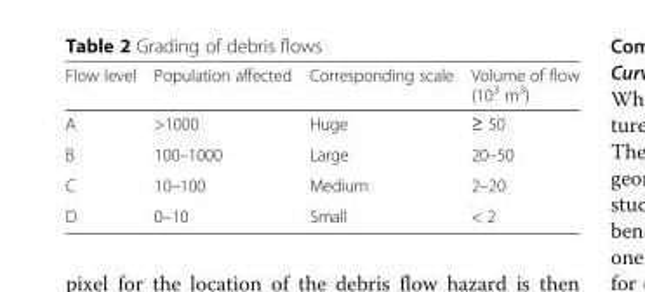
<table><thead><tr><td>Flow level</td><td>Population affected</td><td>Corresponding scale</td><td>Volume of flow (10<sup>3</sup> m<sup>3</sup>)</td></tr></thead><tbody><tr><td>A</td><td>&gt;1000</td><td>Huge</td><td>≥ 50</td></tr><tr><td>B</td><td>100–1000</td><td>Large</td><td>20–50</td></tr><tr><td>C</td><td>10–100</td><td>Medium</td><td>2–20</td></tr><tr><td>D</td><td>0–10</td><td>Small</td><td>&lt; 2</td></tr></tbody></table>